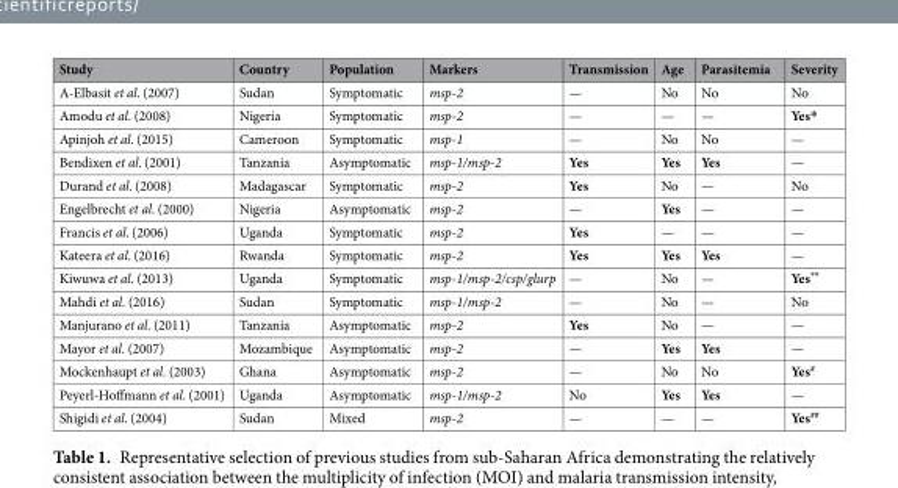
<table><thead><tr><td>Study</td><td>Country</td><td>Population</td><td>Markers</td><td>Transmission</td><td>Age</td><td>Parasitemia</td><td>Severity</td></tr></thead><tbody><tr><td>A-Elbasit et al. (2007)</td><td>Sudan</td><td>Symptomatic</td><td>msp-2</td><td>—</td><td>No</td><td>No</td><td>No</td></tr><tr><td>Amodu et al. (2008)</td><td>Nigeria</td><td>Symptomatic</td><td>msp-2</td><td>—</td><td>—</td><td>—</td><td>Yes*</td></tr><tr><td>Apinjoh et al. (2015)</td><td>Cameroon</td><td>Symptomatic</td><td>msp-1</td><td>—</td><td>No</td><td>No</td><td>—</td></tr><tr><td>Bendixen et al. (2001)</td><td>Tanzania</td><td>Asymptomatic</td><td>msp-1/msp-2</td><td>Yes</td><td>Yes</td><td>Yes</td><td>—</td></tr><tr><td>Durand et al. (2008)</td><td>Madagascar</td><td>Symptomatic</td><td>msp-2</td><td>Yes</td><td>No</td><td>—</td><td>No</td></tr><tr><td>Engelbrecht et al. (2000)</td><td>Nigeria</td><td>Asymptomatic</td><td>msp-2</td><td>—</td><td>Yes</td><td>—</td><td>—</td></tr><tr><td>Francis et al. (2006)</td><td>Uganda</td><td>Symptomatic</td><td>msp-2</td><td>Yes</td><td>—</td><td>—</td><td>—</td></tr><tr><td>Kateera et al. (2016)</td><td>Rwanda</td><td>Symptomatic</td><td>msp-2</td><td>Yes</td><td>Yes</td><td>Yes</td><td>—</td></tr><tr><td>Kiwuwa et al. (2013)</td><td>Uganda</td><td>Symptomatic</td><td>msp-1/msp-2/csp/glurp</td><td>—</td><td>No</td><td>—</td><td>Yes**</td></tr><tr><td>Mahdi et al. (2016)</td><td>Sudan</td><td>Symptomatic</td><td>msp-1/msp-2</td><td>—</td><td>No</td><td>—</td><td>No</td></tr><tr><td>Manjurano et al. (2011)</td><td>Tanzania</td><td>Asymptomatic</td><td>msp-2</td><td>Yes</td><td>No</td><td>—</td><td>—</td></tr><tr><td>Mayor et al. (2007)</td><td>Mozambique</td><td>Asymptomatic</td><td>msp-2</td><td>—</td><td>Yes</td><td>Yes</td><td>—</td></tr><tr><td>Mockenhaupt et al. (2003)</td><td>Ghana</td><td>Asymptomatic</td><td>msp-2</td><td>—</td><td>No</td><td>No</td><td>Yes<sup>#</sup></td></tr><tr><td>Peyerl-Hoffmann et al. (2001)</td><td>Uganda</td><td>Asymptomatic</td><td>msp-1/msp-2</td><td>No</td><td>Yes</td><td>Yes</td><td>—</td></tr><tr><td>Shigidi et al. (2004)</td><td>Sudan</td><td>Mixed</td><td>msp-2</td><td>—</td><td>—</td><td>—</td><td>Yes<sup>##</sup></td></tr></tbody></table>